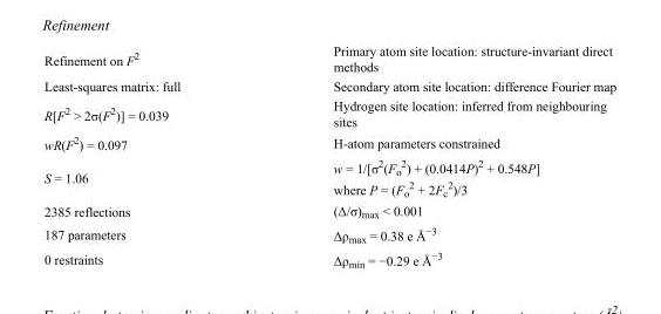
<table><tbody><tr><td>Refinement on F<sup>2</sup></td><td>Primary atom site location: structure-invariant direct methods</td></tr><tr><td>Least-squares matrix: full</td><td>Secondary atom site location: difference Fourier map</td></tr><tr><td>R[F<sup>2</sup> &gt; 2σ(F<sup>2</sup>)] = 0.039</td><td>Hydrogen site location: inferred from neighbouring sites</td></tr><tr><td>wR(F<sup>2</sup>) = 0.097</td><td>H-atom parameters constrained</td></tr><tr><td>S = 1.06</td><td>w = 1/[σ<sup>2</sup>(F<sub>o</sub> <sup>2</sup>) + (0.0414P)<sup>2</sup> + 0.548P] where P = (F<sub>o</sub> <sup>2</sup> + 2F<sub>c</sub> <sup>2</sup>)/3</td></tr><tr><td>2385 reflections</td><td>(Δ/σ)<sub>max</sub> &lt; 0.001</td></tr><tr><td>187 parameters</td><td>Δρ<sub>max</sub> = 0.38 e Å<sup>−3</sup></td></tr><tr><td>0 restraints</td><td>Δρ<sub>min</sub> = −0.29 e Å<sup>−3</sup></td></tr></tbody></table>